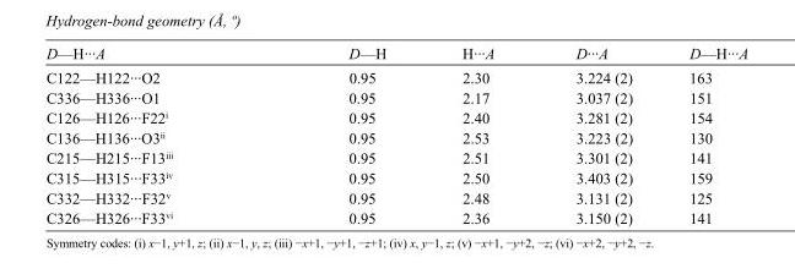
<table><tbody><tr><td>D—H···A</td><td>D—H</td><td>H···A</td><td>D···A</td><td>D—H···A</td></tr><tr><td>C122—H122···O2</td><td>0.95</td><td>2.30</td><td>3.224 (2)</td><td>163</td></tr><tr><td>C336—H336···O1</td><td>0.95</td><td>2.17</td><td>3.037 (2)</td><td>151</td></tr><tr><td>C126—H126···F22<sup>i</sup></td><td>0.95</td><td>2.40</td><td>3.281 (2)</td><td>154</td></tr><tr><td>C136—H136···O3<sup>ii</sup></td><td>0.95</td><td>2.53</td><td>3.223 (2)</td><td>130</td></tr><tr><td>C215—H215···F13<sup>iii</sup></td><td>0.95</td><td>2.51</td><td>3.301 (2)</td><td>141</td></tr><tr><td>C315—H315···F33<sup>iv</sup></td><td>0.95</td><td>2.50</td><td>3.403 (2)</td><td>159</td></tr><tr><td>C332—H332···F32<sup>v</sup></td><td>0.95</td><td>2.48</td><td>3.131 (2)</td><td>125</td></tr><tr><td>C326—H326···F33<sup>vi</sup></td><td>0.95</td><td>2.36</td><td>3.150 (2)</td><td>141</td></tr></tbody></table>